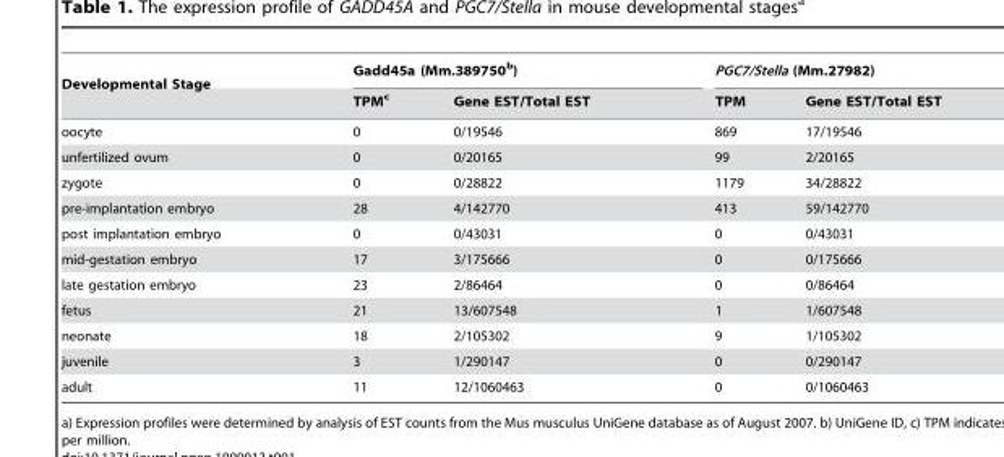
<table><thead><tr><td rowspan="2">Developmental Stage</td><td colspan="2">Gadd45a (Mm.389750<sup>b</sup>)</td><td colspan="2">PGC7/Stella (Mm.27982)</td></tr><tr><td>TPM<sup>c</sup></td><td>Gene EST/Total EST</td><td>TPM</td><td>Gene EST/Total EST</td></tr></thead><tbody><tr><td>oocyte</td><td>0</td><td>0/19546</td><td>869</td><td>17/19546</td></tr><tr><td>unfertilized ovum</td><td>0</td><td>0/20165</td><td>99</td><td>2/20165</td></tr><tr><td>zygote</td><td>0</td><td>0/28822</td><td>1179</td><td>34/28822</td></tr><tr><td>pre-implantation embryo</td><td>28</td><td>4/142770</td><td>413</td><td>59/142770</td></tr><tr><td>post implantation embryo</td><td>0</td><td>0/43031</td><td>0</td><td>0/43031</td></tr><tr><td>mid-gestation embryo</td><td>17</td><td>3/175666</td><td>0</td><td>0/175666</td></tr><tr><td>late gestation embryo</td><td>23</td><td>2/86464</td><td>0</td><td>0/86464</td></tr><tr><td>fetus</td><td>21</td><td>13/607548</td><td>1</td><td>1/607548</td></tr><tr><td>neonate</td><td>18</td><td>2/105302</td><td>9</td><td>1/105302</td></tr><tr><td>juvenile</td><td>3</td><td>1/290147</td><td>0</td><td>0/290147</td></tr><tr><td>adult</td><td>11</td><td>12/1060463</td><td>0</td><td>0/1060463</td></tr></tbody></table>